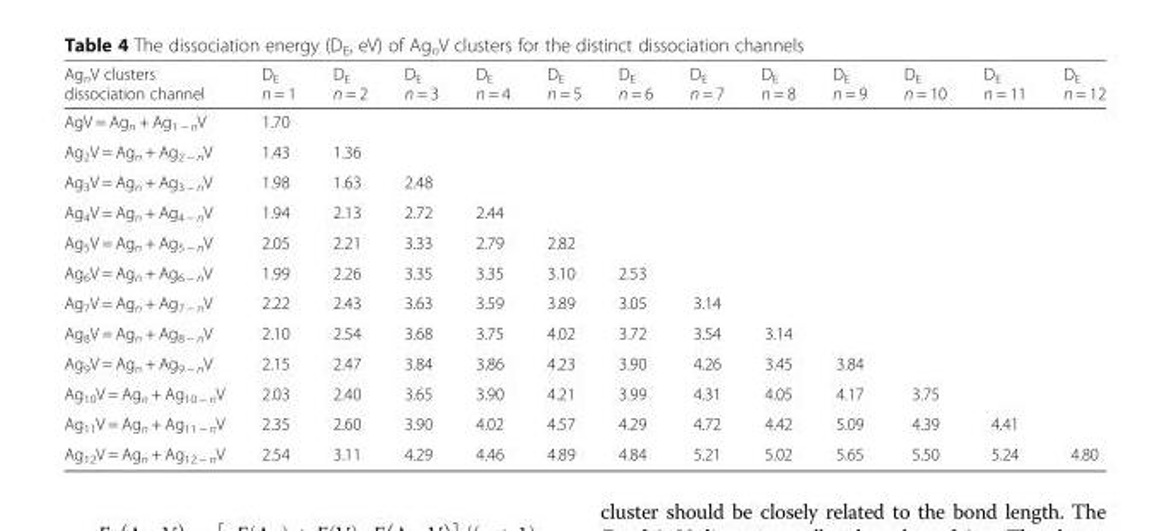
<table><thead><tr><td>Ag<sub>n</sub>V clusters dissociation channel</td><td>D<sub>E</sub> n = 1</td><td>D<sub>E</sub> n = 2</td><td>D<sub>E</sub> n = 3</td><td>D<sub>E</sub> n = 4</td><td>D<sub>E</sub> n = 5</td><td>D<sub>E</sub> n = 6</td><td>D<sub>E</sub> n = 7</td><td>D<sub>E</sub> n = 8</td><td>D<sub>E</sub> n = 9</td><td>D<sub>E</sub> n = 10</td><td>D<sub>E</sub> n = 11</td><td>D<sub>E</sub> n = 12</td></tr></thead><tbody><tr><td>AgV = Ag<sub>n</sub> + Ag<sub>1 − n</sub>V</td><td>1.70</td><td></td><td></td><td></td><td></td><td></td><td></td><td></td><td></td><td></td><td></td><td></td></tr><tr><td>Ag<sub>2</sub>V = Ag<sub>n</sub> + Ag<sub>2 − n</sub>V</td><td>1.43</td><td>1.36</td><td></td><td></td><td></td><td></td><td></td><td></td><td></td><td></td><td></td><td></td></tr><tr><td>Ag<sub>3</sub>V = Ag<sub>n</sub> + Ag<sub>3 − n</sub>V</td><td>1.98</td><td>1.63</td><td>2.48</td><td></td><td></td><td></td><td></td><td></td><td></td><td></td><td></td><td></td></tr><tr><td>Ag<sub>4</sub>V = Ag<sub>n</sub> + Ag<sub>4 − n</sub>V</td><td>1.94</td><td>2.13</td><td>2.72</td><td>2.44</td><td></td><td></td><td></td><td></td><td></td><td></td><td></td><td></td></tr><tr><td>Ag<sub>5</sub>V = Ag<sub>n</sub> + Ag<sub>5 − n</sub>V</td><td>2.05</td><td>2.21</td><td>3.33</td><td>2.79</td><td>2.82</td><td></td><td></td><td></td><td></td><td></td><td></td><td></td></tr><tr><td>Ag<sub>6</sub>V = Ag<sub>n</sub> + Ag<sub>6 − n</sub>V</td><td>1.99</td><td>2.26</td><td>3.35</td><td>3.35</td><td>3.10</td><td>2.53</td><td></td><td></td><td></td><td></td><td></td><td></td></tr><tr><td>Ag<sub>7</sub>V = Ag<sub>n</sub> + Ag<sub>7 − n</sub>V</td><td>2.22</td><td>2.43</td><td>3.63</td><td>3.59</td><td>3.89</td><td>3.05</td><td>3.14</td><td></td><td></td><td></td><td></td><td></td></tr><tr><td>Ag<sub>8</sub>V = Ag<sub>n</sub> + Ag<sub>8 − n</sub>V</td><td>2.10</td><td>2.54</td><td>3.68</td><td>3.75</td><td>4.02</td><td>3.72</td><td>3.54</td><td>3.14</td><td></td><td></td><td></td><td></td></tr><tr><td>Ag<sub>9</sub>V = Ag<sub>n</sub> + Ag<sub>9 − n</sub>V</td><td>2.15</td><td>2.47</td><td>3.84</td><td>3.86</td><td>4.23</td><td>3.90</td><td>4.26</td><td>3.45</td><td>3.84</td><td></td><td></td><td></td></tr><tr><td>Ag<sub>10</sub>V = Ag<sub>n</sub> + Ag<sub>10 − n</sub>V</td><td>2.03</td><td>2.40</td><td>3.65</td><td>3.90</td><td>4.21</td><td>3.99</td><td>4.31</td><td>4.05</td><td>4.17</td><td>3.75</td><td></td><td></td></tr><tr><td>Ag<sub>11</sub>V = Ag<sub>n</sub> + Ag<sub>11 − n</sub>V</td><td>2.35</td><td>2.60</td><td>3.90</td><td>4.02</td><td>4.57</td><td>4.29</td><td>4.72</td><td>4.42</td><td>5.09</td><td>4.39</td><td>4.41</td><td></td></tr><tr><td>Ag<sub>12</sub>V = Ag<sub>n</sub> + Ag<sub>12 − n</sub>V</td><td>2.54</td><td>3.11</td><td>4.29</td><td>4.46</td><td>4.89</td><td>4.84</td><td>5.21</td><td>5.02</td><td>5.65</td><td>5.50</td><td>5.24</td><td>4.80</td></tr></tbody></table>